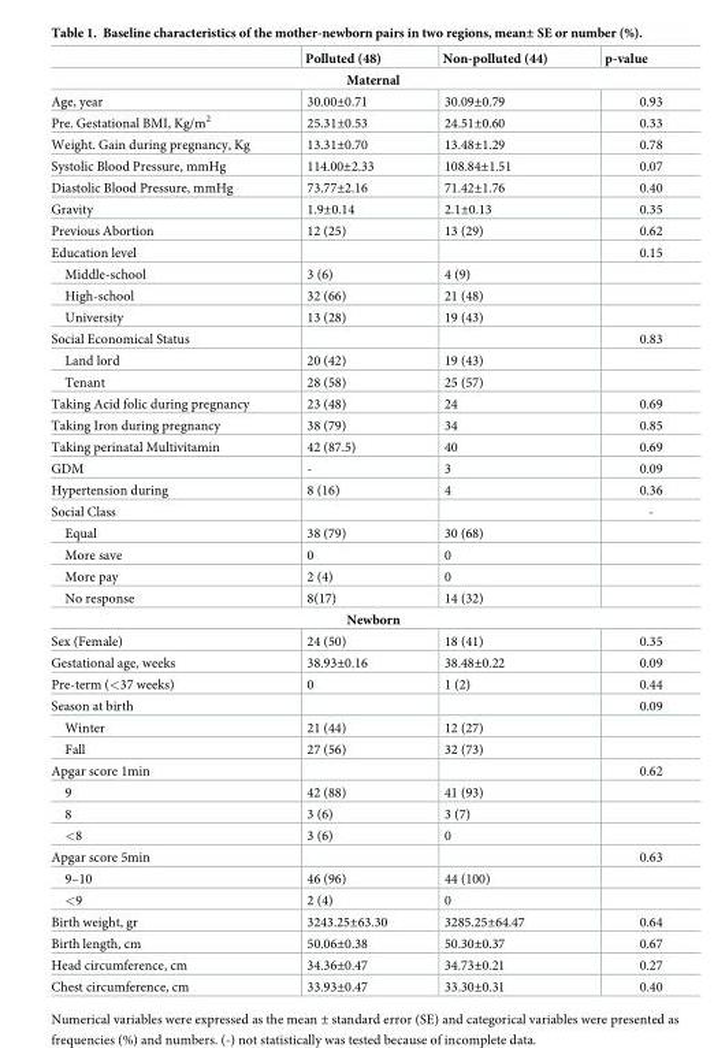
<table><thead><tr><td></td><td>Polluted (48)</td><td>Non-polluted (44)</td><td>p-value</td></tr></thead><tbody><tr><td colspan="4">Maternal</td></tr><tr><td>Age, year</td><td>30.00±0.71</td><td>30.09±0.79</td><td>0.93</td></tr><tr><td>Pre. Gestational BMI, Kg/m<sup>2</sup></td><td>25.31±0.53</td><td>24.51±0.60</td><td>0.33</td></tr><tr><td>Weight. Gain during pregnancy, Kg</td><td>13.31±0.70</td><td>13.48±1.29</td><td>0.78</td></tr><tr><td>Systolic Blood Pressure, mmHg</td><td>114.00±2.33</td><td>108.84±1.51</td><td>0.07</td></tr><tr><td>Diastolic Blood Pressure, mmHg</td><td>73.77±2.16</td><td>71.42±1.76</td><td>0.40</td></tr><tr><td>Gravity</td><td>1.9±0.14</td><td>2.1±0.13</td><td>0.35</td></tr><tr><td>Previous Abortion</td><td>12 (25)</td><td>13 (29)</td><td>0.62</td></tr><tr><td>Education level</td><td></td><td></td><td>0.15</td></tr><tr><td>Middle-school</td><td>3 (6)</td><td>4 (9)</td><td></td></tr><tr><td>High-school</td><td>32 (66)</td><td>21 (48)</td><td></td></tr><tr><td>University</td><td>13 (28)</td><td>19 (43)</td><td></td></tr><tr><td>Social Economical Status</td><td></td><td></td><td>0.83</td></tr><tr><td>Land lord</td><td>20 (42)</td><td>19 (43)</td><td></td></tr><tr><td>Tenant</td><td>28 (58)</td><td>25 (57)</td><td></td></tr><tr><td>Taking Acid folic during pregnancy</td><td>23 (48)</td><td>24</td><td>0.69</td></tr><tr><td>Taking Iron during pregnancy</td><td>38 (79)</td><td>34</td><td>0.85</td></tr><tr><td>Taking perinatal Multivitamin</td><td>42 (87.5)</td><td>40</td><td>0.69</td></tr><tr><td>GDM</td><td>-</td><td>3</td><td>0.09</td></tr><tr><td>Hypertension during</td><td>8 (16)</td><td>4</td><td>0.36</td></tr><tr><td>Social Class</td><td></td><td></td><td>-</td></tr><tr><td>Equal</td><td>38 (79)</td><td>30 (68)</td><td></td></tr><tr><td>More save</td><td>0</td><td>0</td><td></td></tr><tr><td>More pay</td><td>2 (4)</td><td>0</td><td></td></tr><tr><td>No response</td><td>8(17)</td><td>14 (32)</td><td></td></tr><tr><td colspan="4">Newborn</td></tr><tr><td>Sex (Female)</td><td>24 (50)</td><td>18 (41)</td><td>0.35</td></tr><tr><td>Gestational age, weeks</td><td>38.93±0.16</td><td>38.48±0.22</td><td>0.09</td></tr><tr><td>Pre-term (&lt;37 weeks)</td><td>0</td><td>1 (2)</td><td>0.44</td></tr><tr><td>Season at birth</td><td></td><td></td><td>0.09</td></tr><tr><td>Winter</td><td>21 (44)</td><td>12 (27)</td><td></td></tr><tr><td>Fall</td><td>27 (56)</td><td>32 (73)</td><td></td></tr><tr><td>Apgar score 1min</td><td></td><td></td><td>0.62</td></tr><tr><td>9</td><td>42 (88)</td><td>41 (93)</td><td></td></tr><tr><td>8</td><td>3 (6)</td><td>3 (7)</td><td></td></tr><tr><td>&lt;8</td><td>3 (6)</td><td>0</td><td></td></tr><tr><td>Apgar score 5min</td><td></td><td></td><td>0.63</td></tr><tr><td>9–10</td><td>46 (96)</td><td>44 (100)</td><td></td></tr><tr><td>&lt;9</td><td>2 (4)</td><td>0</td><td></td></tr><tr><td>Birth weight, gr</td><td>3243.25±63.30</td><td>3285.25±64.47</td><td>0.64</td></tr><tr><td>Birth length, cm</td><td>50.06±0.38</td><td>50.30±0.37</td><td>0.67</td></tr><tr><td>Head circumference, cm</td><td>34.36±0.47</td><td>34.73±0.21</td><td>0.27</td></tr><tr><td>Chest circumference, cm</td><td>33.93±0.47</td><td>33.30±0.31</td><td>0.40</td></tr></tbody></table>